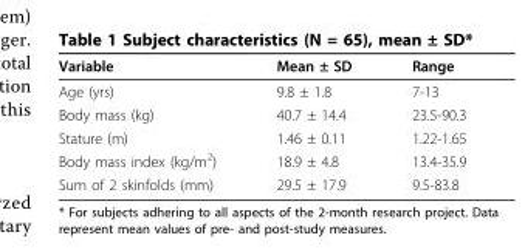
<table><thead><tr><td>Variable</td><td>Mean ± SD</td><td>Range</td></tr></thead><tbody><tr><td>Age (yrs)</td><td>9.8 ± 1.8</td><td>7-13</td></tr><tr><td>Body mass (kg)</td><td>40.7 ± 14.4</td><td>23.5-90.3</td></tr><tr><td>Stature (m)</td><td>1.46 ± 0.11</td><td>1.22-1.65</td></tr><tr><td>Body mass index (kg/m<sup>2</sup>)</td><td>18.9 ± 4.8</td><td>13.4-35.9</td></tr><tr><td>Sum of 2 skinfolds (mm)</td><td>29.5 ± 17.9</td><td>9.5-83.8</td></tr></tbody></table>